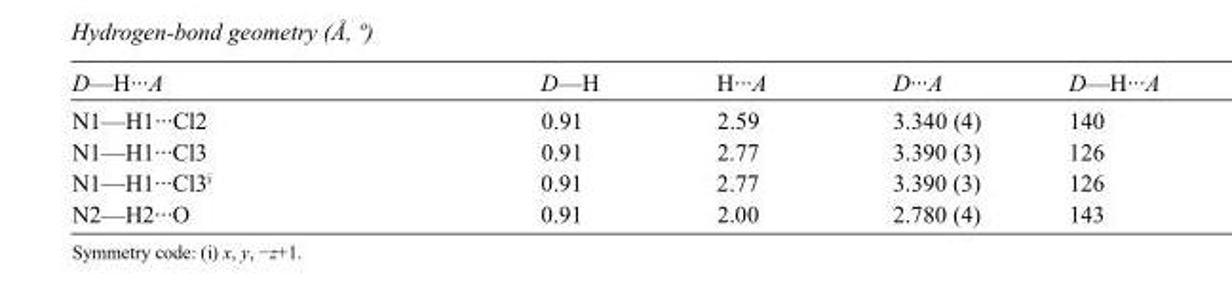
<table><tbody><tr><td>D—H···A</td><td>D—H</td><td>H···A</td><td>D···A</td><td>D—H···A</td></tr><tr><td>N1—H1···Cl2</td><td>0.91</td><td>2.59</td><td>3.340 (4)</td><td>140</td></tr><tr><td>N1—H1···Cl3</td><td>0.91</td><td>2.77</td><td>3.390 (3)</td><td>126</td></tr><tr><td>N1—H1···Cl3<sup>i</sup></td><td>0.91</td><td>2.77</td><td>3.390 (3)</td><td>126</td></tr><tr><td>N2—H2···O</td><td>0.91</td><td>2.00</td><td>2.780 (4)</td><td>143</td></tr></tbody></table>